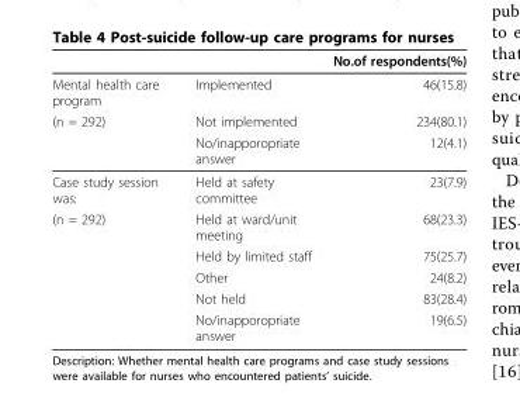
<table><thead><tr><td></td><td></td><td>No.of respondents(%)</td></tr></thead><tbody><tr><td>Mental health care program</td><td>Implemented</td><td>46(15.8)</td></tr><tr><td rowspan="2">(n = 292)</td><td>Not implemented</td><td>234(80.1)</td></tr><tr><td>No/inapporopriate answer</td><td>12(4.1)</td></tr><tr><td>Case study session was:</td><td>Held at safety committee</td><td>23(7.9)</td></tr><tr><td rowspan="5">(n = 292)</td><td>Held at ward/unit meeting</td><td>68(23.3)</td></tr><tr><td>Held by limited staff</td><td>75(25.7)</td></tr><tr><td>Other</td><td>24(8.2)</td></tr><tr><td>Not held</td><td>83(28.4)</td></tr><tr><td>No/inapporopriate answer</td><td>19(6.5)</td></tr></tbody></table>